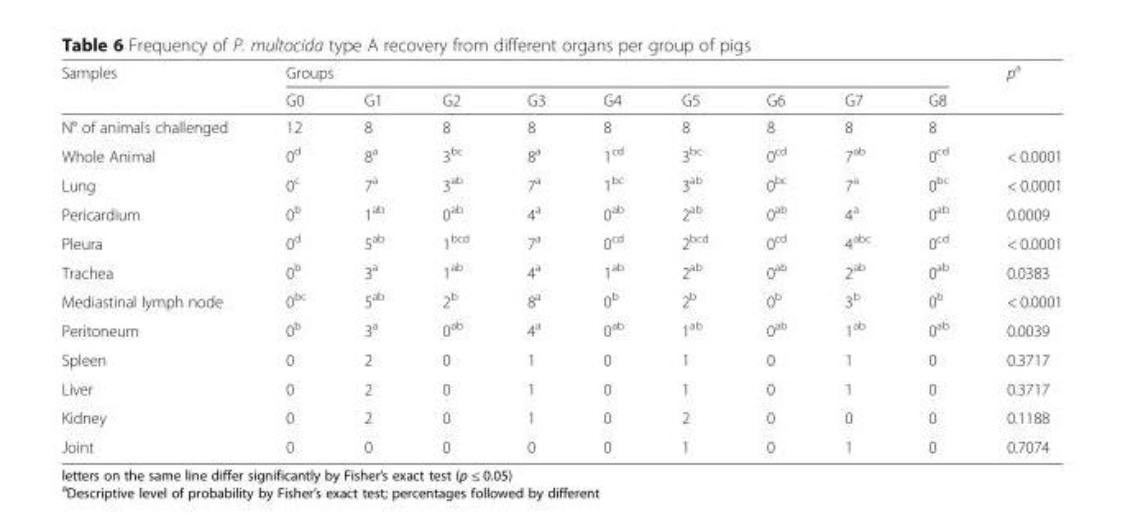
<table><thead><tr><td rowspan="2">Samples</td><td colspan="9">Groups</td><td rowspan="2">p<sup>a</sup></td></tr><tr><td>G0</td><td>G1</td><td>G2</td><td>G3</td><td>G4</td><td>G5</td><td>G6</td><td>G7</td><td>G8</td></tr></thead><tbody><tr><td>N° of animals challenged</td><td>12</td><td>8</td><td>8</td><td>8</td><td>8</td><td>8</td><td>8</td><td>8</td><td>8</td><td></td></tr><tr><td>Whole Animal</td><td>0<sup>d</sup></td><td>8<sup>a</sup></td><td>3<sup>bc</sup></td><td>8<sup>a</sup></td><td>1<sup>cd</sup></td><td>3<sup>bc</sup></td><td>0<sup>cd</sup></td><td>7<sup>ab</sup></td><td>0<sup>cd</sup></td><td>&lt; 0.0001</td></tr><tr><td>Lung</td><td>0<sup>c</sup></td><td>7<sup>a</sup></td><td>3<sup>ab</sup></td><td>7<sup>a</sup></td><td>1<sup>bc</sup></td><td>3<sup>ab</sup></td><td>0<sup>bc</sup></td><td>7<sup>a</sup></td><td>0<sup>bc</sup></td><td>&lt; 0.0001</td></tr><tr><td>Pericardium</td><td>0<sup>b</sup></td><td>1<sup>ab</sup></td><td>0<sup>ab</sup></td><td>4<sup>a</sup></td><td>0<sup>ab</sup></td><td>2<sup>ab</sup></td><td>0<sup>ab</sup></td><td>4<sup>a</sup></td><td>0<sup>ab</sup></td><td>0.0009</td></tr><tr><td>Pleura</td><td>0<sup>d</sup></td><td>5<sup>ab</sup></td><td>1<sup>bcd</sup></td><td>7<sup>a</sup></td><td>0<sup>cd</sup></td><td>2<sup>bcd</sup></td><td>0<sup>cd</sup></td><td>4<sup>abc</sup></td><td>0<sup>cd</sup></td><td>&lt; 0.0001</td></tr><tr><td>Trachea</td><td>0<sup>b</sup></td><td>3<sup>a</sup></td><td>1<sup>ab</sup></td><td>4<sup>a</sup></td><td>1<sup>ab</sup></td><td>2<sup>ab</sup></td><td>0<sup>ab</sup></td><td>2<sup>ab</sup></td><td>0<sup>ab</sup></td><td>0.0383</td></tr><tr><td>Mediastinal lymph node</td><td>0<sup>bc</sup></td><td>5<sup>ab</sup></td><td>2<sup>b</sup></td><td>8<sup>a</sup></td><td>0<sup>b</sup></td><td>2<sup>b</sup></td><td>0<sup>b</sup></td><td>3<sup>b</sup></td><td>0<sup>b</sup></td><td>&lt; 0.0001</td></tr><tr><td>Peritoneum</td><td>0<sup>b</sup></td><td>3<sup>a</sup></td><td>0<sup>ab</sup></td><td>4<sup>a</sup></td><td>0<sup>ab</sup></td><td>1<sup>ab</sup></td><td>0<sup>ab</sup></td><td>1<sup>ab</sup></td><td>0<sup>ab</sup></td><td>0.0039</td></tr><tr><td>Spleen</td><td>0</td><td>2</td><td>0</td><td>1</td><td>0</td><td>1</td><td>0</td><td>1</td><td>0</td><td>0.3717</td></tr><tr><td>Liver</td><td>0</td><td>2</td><td>0</td><td>1</td><td>0</td><td>1</td><td>0</td><td>1</td><td>0</td><td>0.3717</td></tr><tr><td>Kidney</td><td>0</td><td>2</td><td>0</td><td>1</td><td>0</td><td>2</td><td>0</td><td>0</td><td>0</td><td>0.1188</td></tr><tr><td>Joint</td><td>0</td><td>0</td><td>0</td><td>0</td><td>0</td><td>1</td><td>0</td><td>1</td><td>0</td><td>0.7074</td></tr></tbody></table>